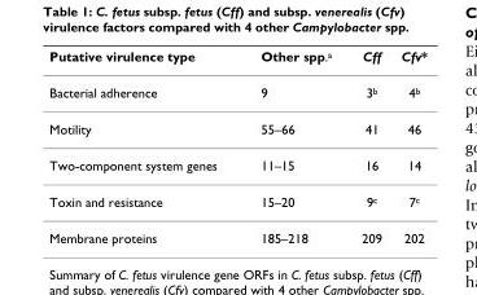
<table><thead><tr><td>Putative virulence type</td><td>Other spp.<sup>a</sup></td><td>Cff</td><td>Cfv*</td></tr></thead><tbody><tr><td>Bacterial adherence</td><td>9</td><td>3<sup>b</sup></td><td>4<sup>b</sup></td></tr><tr><td>Motility</td><td>55–66</td><td>41</td><td>46</td></tr><tr><td>Two-component system genes</td><td>11–15</td><td>16</td><td>14</td></tr><tr><td>Toxin and resistance</td><td>15–20</td><td>9<sup>c</sup></td><td>7<sup>c</sup></td></tr><tr><td>Membrane proteins</td><td>185–218</td><td>209</td><td>202</td></tr></tbody></table>